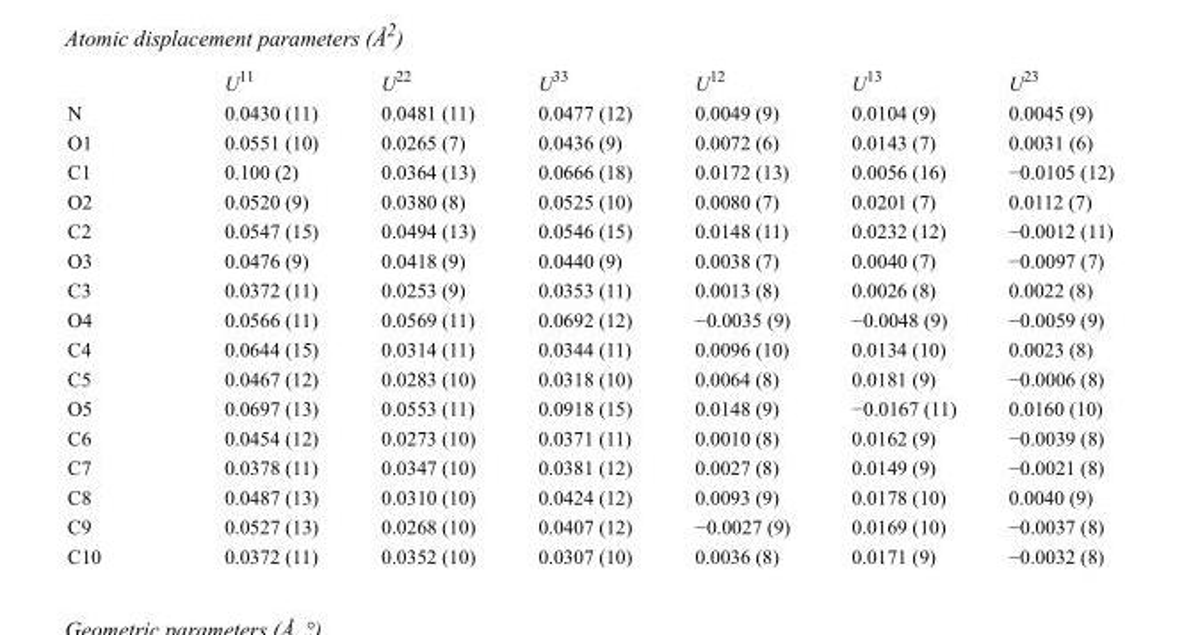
<table><thead><tr><td></td><td>U<sup>11</sup></td><td>U<sup>22</sup></td><td>U<sup>33</sup></td><td>U<sup>12</sup></td><td>U<sup>13</sup></td><td>U<sup>23</sup></td></tr></thead><tbody><tr><td>N</td><td>0.0430 (11)</td><td>0.0481 (11)</td><td>0.0477 (12)</td><td>0.0049 (9)</td><td>0.0104 (9)</td><td>0.0045 (9)</td></tr><tr><td>O1</td><td>0.0551 (10)</td><td>0.0265 (7)</td><td>0.0436 (9)</td><td>0.0072 (6)</td><td>0.0143 (7)</td><td>0.0031 (6)</td></tr><tr><td>C1</td><td>0.100 (2)</td><td>0.0364 (13)</td><td>0.0666 (18)</td><td>0.0172 (13)</td><td>0.0056 (16)</td><td>−0.0105 (12)</td></tr><tr><td>O2</td><td>0.0520 (9)</td><td>0.0380 (8)</td><td>0.0525 (10)</td><td>0.0080 (7)</td><td>0.0201 (7)</td><td>0.0112 (7)</td></tr><tr><td>C2</td><td>0.0547 (15)</td><td>0.0494 (13)</td><td>0.0546 (15)</td><td>0.0148 (11)</td><td>0.0232 (12)</td><td>−0.0012 (11)</td></tr><tr><td>O3</td><td>0.0476 (9)</td><td>0.0418 (9)</td><td>0.0440 (9)</td><td>0.0038 (7)</td><td>0.0040 (7)</td><td>−0.0097 (7)</td></tr><tr><td>C3</td><td>0.0372 (11)</td><td>0.0253 (9)</td><td>0.0353 (11)</td><td>0.0013 (8)</td><td>0.0026 (8)</td><td>0.0022 (8)</td></tr><tr><td>O4</td><td>0.0566 (11)</td><td>0.0569 (11)</td><td>0.0692 (12)</td><td>−0.0035 (9)</td><td>−0.0048 (9)</td><td>−0.0059 (9)</td></tr><tr><td>C4</td><td>0.0644 (15)</td><td>0.0314 (11)</td><td>0.0344 (11)</td><td>0.0096 (10)</td><td>0.0134 (10)</td><td>0.0023 (8)</td></tr><tr><td>C5</td><td>0.0467 (12)</td><td>0.0283 (10)</td><td>0.0318 (10)</td><td>0.0064 (8)</td><td>0.0181 (9)</td><td>−0.0006 (8)</td></tr><tr><td>O5</td><td>0.0697 (13)</td><td>0.0553 (11)</td><td>0.0918 (15)</td><td>0.0148 (9)</td><td>−0.0167 (11)</td><td>0.0160 (10)</td></tr><tr><td>C6</td><td>0.0454 (12)</td><td>0.0273 (10)</td><td>0.0371 (11)</td><td>0.0010 (8)</td><td>0.0162 (9)</td><td>−0.0039 (8)</td></tr><tr><td>C7</td><td>0.0378 (11)</td><td>0.0347 (10)</td><td>0.0381 (12)</td><td>0.0027 (8)</td><td>0.0149 (9)</td><td>−0.0021 (8)</td></tr><tr><td>C8</td><td>0.0487 (13)</td><td>0.0310 (10)</td><td>0.0424 (12)</td><td>0.0093 (9)</td><td>0.0178 (10)</td><td>0.0040 (9)</td></tr><tr><td>C9</td><td>0.0527 (13)</td><td>0.0268 (10)</td><td>0.0407 (12)</td><td>−0.0027 (9)</td><td>0.0169 (10)</td><td>−0.0037 (8)</td></tr><tr><td>C10</td><td>0.0372 (11)</td><td>0.0352 (10)</td><td>0.0307 (10)</td><td>0.0036 (8)</td><td>0.0171 (9)</td><td>−0.0032 (8)</td></tr></tbody></table>